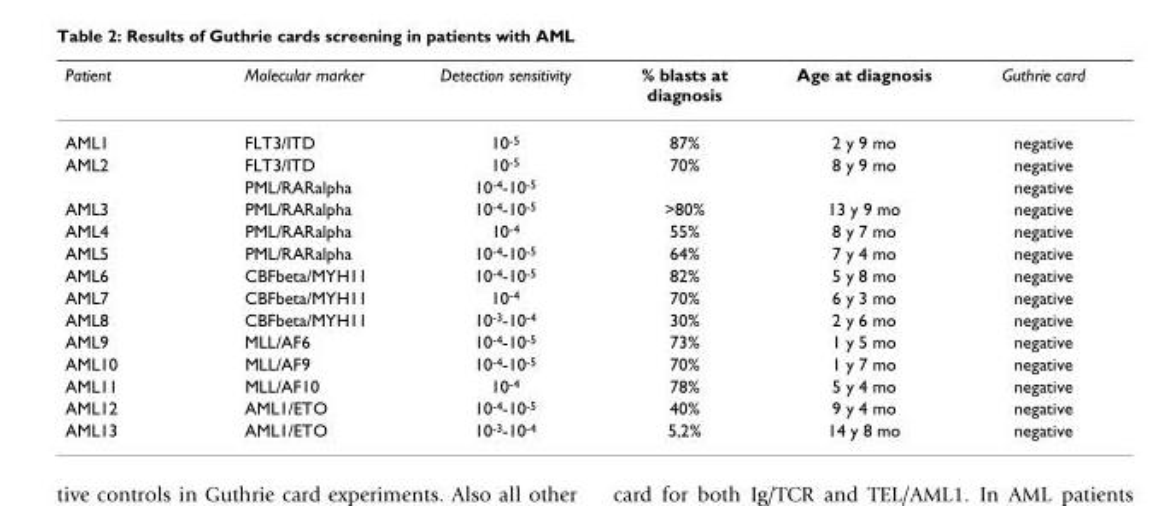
<table><thead><tr><td>Patient</td><td>Molecular marker</td><td>Detection sensitivity</td><td>% blasts at diagnosis</td><td>Age at diagnosis</td><td>Guthrie card</td></tr></thead><tbody><tr><td>AML1</td><td>FLT3/ITD</td><td>10-5</td><td>87%</td><td>2 y 9 mo</td><td>negative</td></tr><tr><td rowspan="2">AML2</td><td>FLT3/ITD</td><td>10-5</td><td>70%</td><td>8 y 9 mo</td><td>negative</td></tr><tr><td>PML/RARalpha</td><td>10-4-10-5</td><td></td><td></td><td>negative</td></tr><tr><td>AML3</td><td>PML/RARalpha</td><td>10-4-10-5</td><td>&gt;80%</td><td>13 y 9 mo</td><td>negative</td></tr><tr><td>AML4</td><td>PML/RARalpha</td><td>10-4</td><td>55%</td><td>8 y 7 mo</td><td>negative</td></tr><tr><td>AML5</td><td>PML/RARalpha</td><td>10-4-10-5</td><td>64%</td><td>7 y 4 mo</td><td>negative</td></tr><tr><td>AML6</td><td>CBFbeta/MYH11</td><td>10-4-10-5</td><td>82%</td><td>5 y 8 mo</td><td>negative</td></tr><tr><td>AML7</td><td>CBFbeta/MYH11</td><td>10-4</td><td>70%</td><td>6 y 3 mo</td><td>negative</td></tr><tr><td>AML8</td><td>CBFbeta/MYH11</td><td>10-3-10-4</td><td>30%</td><td>2 y 6 mo</td><td>negative</td></tr><tr><td>AML9</td><td>MLL/AF6</td><td>10-4-10-5</td><td>73%</td><td>1 y 5 mo</td><td>negative</td></tr><tr><td>AML10</td><td>MLL/AF9</td><td>10-4-10-5</td><td>70%</td><td>1 y 7 mo</td><td>negative</td></tr><tr><td>AML11</td><td>MLL/AF10</td><td>10-4</td><td>78%</td><td>5 y 4 mo</td><td>negative</td></tr><tr><td>AML12</td><td>AML1/ETO</td><td>10-4-10-5</td><td>40%</td><td>9 y 4 mo</td><td>negative</td></tr><tr><td>AML13</td><td>AML1/ETO</td><td>10-3-10-4</td><td>5,2%</td><td>14 y 8 mo</td><td>negative</td></tr></tbody></table>